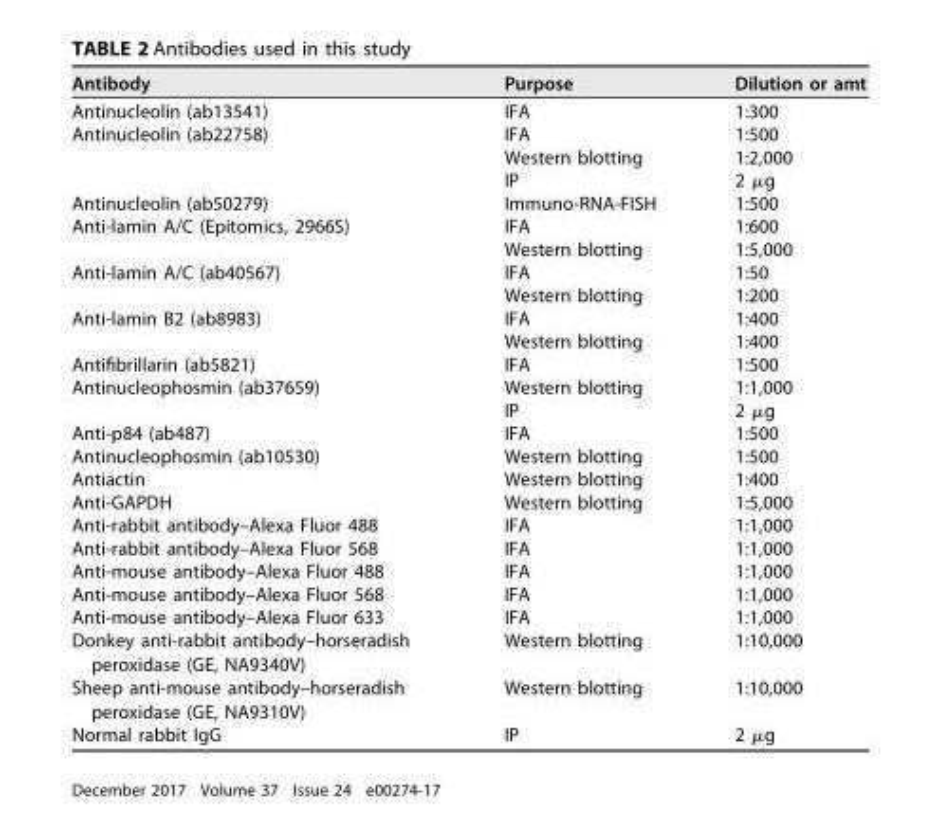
<table><thead><tr><td>Antibody</td><td>Purpose</td><td>Dilution or amt</td></tr></thead><tbody><tr><td>Antinucleolin (ab13541)</td><td>IFA</td><td>1:300</td></tr><tr><td rowspan="3">Antinucleolin (ab22758)</td><td>IFA</td><td>1:500</td></tr><tr><td>Western blotting</td><td>1:2,000</td></tr><tr><td>IP</td><td>2 μg</td></tr><tr><td>Antinucleolin (ab50279)</td><td>Immuno-RNA-FISH</td><td>1:500</td></tr><tr><td rowspan="2">Anti-lamin A/C (Epitomics, 2966S)</td><td>IFA</td><td>1:600</td></tr><tr><td>Western blotting</td><td>1:5,000</td></tr><tr><td rowspan="2">Anti-lamin A/C (ab40567)</td><td>IFA</td><td>1:50</td></tr><tr><td>Western blotting</td><td>1:200</td></tr><tr><td rowspan="2">Anti-lamin B2 (ab8983)</td><td>IFA</td><td>1:400</td></tr><tr><td>Western blotting</td><td>1:400</td></tr><tr><td>Antifibrillarin (ab5821)</td><td>IFA</td><td>1:500</td></tr><tr><td rowspan="2">Antinucleophosmin (ab37659)</td><td>Western blotting</td><td>1:1,000</td></tr><tr><td>IP</td><td>2 μg</td></tr><tr><td>Anti-p84 (ab487)</td><td>IFA</td><td>1:500</td></tr><tr><td>Antinucleophosmin (ab10530)</td><td>Western blotting</td><td>1:500</td></tr><tr><td>Antiactin</td><td>Western blotting</td><td>1:400</td></tr><tr><td>Anti-GAPDH</td><td>Western blotting</td><td>1:5,000</td></tr><tr><td>Anti-rabbit antibody–Alexa Fluor 488</td><td>IFA</td><td>1:1,000</td></tr><tr><td>Anti-rabbit antibody–Alexa Fluor 568</td><td>IFA</td><td>1:1,000</td></tr><tr><td>Anti-mouse antibody–Alexa Fluor 488</td><td>IFA</td><td>1:1,000</td></tr><tr><td>Anti-mouse antibody–Alexa Fluor 568</td><td>IFA</td><td>1:1,000</td></tr><tr><td>Anti-mouse antibody–Alexa Fluor 633</td><td>IFA</td><td>1:1,000</td></tr><tr><td>Donkey anti-rabbit antibody–horseradish peroxidase (GE, NA9340V)</td><td>Western blotting</td><td>1:10,000</td></tr><tr><td>Sheep anti-mouse antibody–horseradish peroxidase (GE, NA9310V)</td><td>Western blotting</td><td>1:10,000</td></tr><tr><td>Normal rabbit IgG</td><td>IP</td><td>2 μg</td></tr></tbody></table>